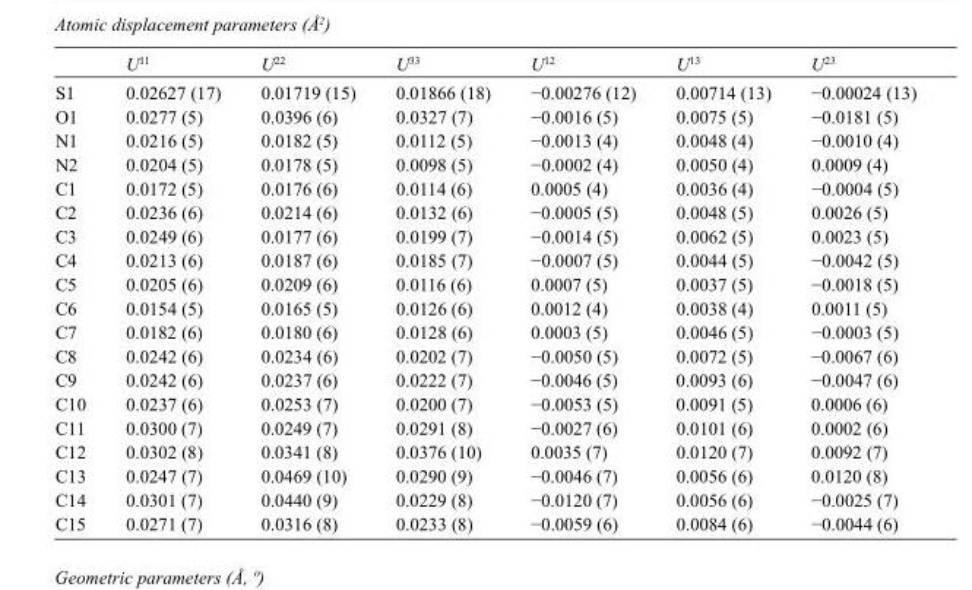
<table><thead><tr><td></td><td>U<sup>11</sup></td><td>U<sup>22</sup></td><td>U<sup>33</sup></td><td>U<sup>12</sup></td><td>U<sup>13</sup></td><td>U<sup>23</sup></td></tr></thead><tbody><tr><td>S1</td><td>0.02627 (17)</td><td>0.01719 (15)</td><td>0.01866 (18)</td><td>−0.00276 (12)</td><td>0.00714 (13)</td><td>−0.00024 (13)</td></tr><tr><td>O1</td><td>0.0277 (5)</td><td>0.0396 (6)</td><td>0.0327 (7)</td><td>−0.0016 (5)</td><td>0.0075 (5)</td><td>−0.0181 (5)</td></tr><tr><td>N1</td><td>0.0216 (5)</td><td>0.0182 (5)</td><td>0.0112 (5)</td><td>−0.0013 (4)</td><td>0.0048 (4)</td><td>−0.0010 (4)</td></tr><tr><td>N2</td><td>0.0204 (5)</td><td>0.0178 (5)</td><td>0.0098 (5)</td><td>−0.0002 (4)</td><td>0.0050 (4)</td><td>0.0009 (4)</td></tr><tr><td>C1</td><td>0.0172 (5)</td><td>0.0176 (6)</td><td>0.0114 (6)</td><td>0.0005 (4)</td><td>0.0036 (4)</td><td>−0.0004 (5)</td></tr><tr><td>C2</td><td>0.0236 (6)</td><td>0.0214 (6)</td><td>0.0132 (6)</td><td>−0.0005 (5)</td><td>0.0048 (5)</td><td>0.0026 (5)</td></tr><tr><td>C3</td><td>0.0249 (6)</td><td>0.0177 (6)</td><td>0.0199 (7)</td><td>−0.0014 (5)</td><td>0.0062 (5)</td><td>0.0023 (5)</td></tr><tr><td>C4</td><td>0.0213 (6)</td><td>0.0187 (6)</td><td>0.0185 (7)</td><td>−0.0007 (5)</td><td>0.0044 (5)</td><td>−0.0042 (5)</td></tr><tr><td>C5</td><td>0.0205 (6)</td><td>0.0209 (6)</td><td>0.0116 (6)</td><td>0.0007 (5)</td><td>0.0037 (5)</td><td>−0.0018 (5)</td></tr><tr><td>C6</td><td>0.0154 (5)</td><td>0.0165 (5)</td><td>0.0126 (6)</td><td>0.0012 (4)</td><td>0.0038 (4)</td><td>0.0011 (5)</td></tr><tr><td>C7</td><td>0.0182 (6)</td><td>0.0180 (6)</td><td>0.0128 (6)</td><td>0.0003 (5)</td><td>0.0046 (5)</td><td>−0.0003 (5)</td></tr><tr><td>C8</td><td>0.0242 (6)</td><td>0.0234 (6)</td><td>0.0202 (7)</td><td>−0.0050 (5)</td><td>0.0072 (5)</td><td>−0.0067 (6)</td></tr><tr><td>C9</td><td>0.0242 (6)</td><td>0.0237 (6)</td><td>0.0222 (7)</td><td>−0.0046 (5)</td><td>0.0093 (6)</td><td>−0.0047 (6)</td></tr><tr><td>C10</td><td>0.0237 (6)</td><td>0.0253 (7)</td><td>0.0200 (7)</td><td>−0.0053 (5)</td><td>0.0091 (5)</td><td>0.0006 (6)</td></tr><tr><td>C11</td><td>0.0300 (7)</td><td>0.0249 (7)</td><td>0.0291 (8)</td><td>−0.0027 (6)</td><td>0.0101 (6)</td><td>0.0002 (6)</td></tr><tr><td>C12</td><td>0.0302 (8)</td><td>0.0341 (8)</td><td>0.0376 (10)</td><td>0.0035 (7)</td><td>0.0120 (7)</td><td>0.0092 (7)</td></tr><tr><td>C13</td><td>0.0247 (7)</td><td>0.0469 (10)</td><td>0.0290 (9)</td><td>−0.0046 (7)</td><td>0.0056 (6)</td><td>0.0120 (8)</td></tr><tr><td>C14</td><td>0.0301 (7)</td><td>0.0440 (9)</td><td>0.0229 (8)</td><td>−0.0120 (7)</td><td>0.0056 (6)</td><td>−0.0025 (7)</td></tr><tr><td>C15</td><td>0.0271 (7)</td><td>0.0316 (8)</td><td>0.0233 (8)</td><td>−0.0059 (6)</td><td>0.0084 (6)</td><td>−0.0044 (6)</td></tr></tbody></table>